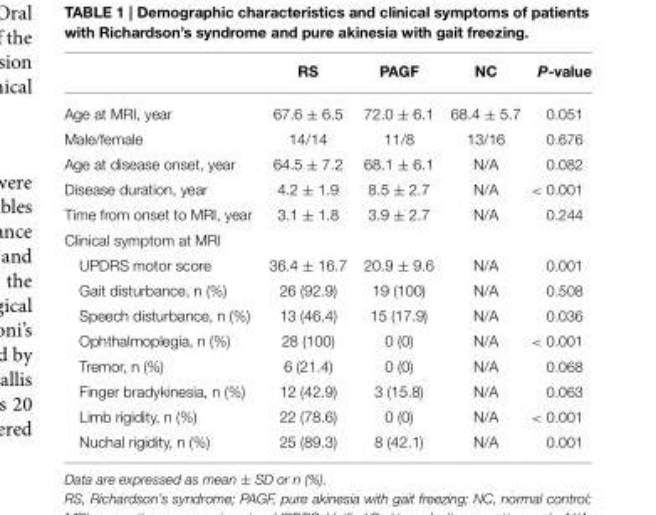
<table><thead><tr><td></td><td>RS</td><td>PAGF</td><td>NC</td><td>P-value</td></tr></thead><tbody><tr><td>Age at MRI, year</td><td>67.6 ± 6.5</td><td>72.0 ± 6.1</td><td>68.4 ± 5.7</td><td>0.051</td></tr><tr><td>Male/female</td><td>14/14</td><td>11/8</td><td>13/16</td><td>0.676</td></tr><tr><td>Age at disease onset, year</td><td>64.5 ± 7.2</td><td>68.1 ± 6.1</td><td>N/A</td><td>0.082</td></tr><tr><td>Disease duration, year</td><td>4.2 ± 1.9</td><td>8.5 ± 2.7</td><td>N/A</td><td>&lt; 0.001</td></tr><tr><td>Time from onset to MRI, year</td><td>3.1 ± 1.8</td><td>3.9 ± 2.7</td><td>N/A</td><td>0.244</td></tr><tr><td colspan="5">Clinical symptom at MRI</td></tr><tr><td>UPDRS motor score</td><td>36.4 ± 16.7</td><td>20.9 ± 9.6</td><td>N/A</td><td>0.001</td></tr><tr><td>Gait disturbance, n (%)</td><td>26 (92.9)</td><td>19 (100)</td><td>N/A</td><td>0.508</td></tr><tr><td>Speech disturbance, n (%)</td><td>13 (46.4)</td><td>15 (17.9)</td><td>N/A</td><td>0.036</td></tr><tr><td>Ophthalmoplegia, n (%)</td><td>28 (100)</td><td>0 (0)</td><td>N/A</td><td>&lt; 0.001</td></tr><tr><td>Tremor, n (%)</td><td>6 (21.4)</td><td>0 (0)</td><td>N/A</td><td>0.068</td></tr><tr><td>Finger bradykinesia, n (%)</td><td>12 (42.9)</td><td>3 (15.8)</td><td>N/A</td><td>0.063</td></tr><tr><td>Limb rigidity, n (%)</td><td>22 (78.6)</td><td>0 (0)</td><td>N/A</td><td>&lt; 0.001</td></tr><tr><td>Nuchal rigidity, n (%)</td><td>25 (89.3)</td><td>8 (42.1)</td><td>N/A</td><td>0.001</td></tr></tbody></table>